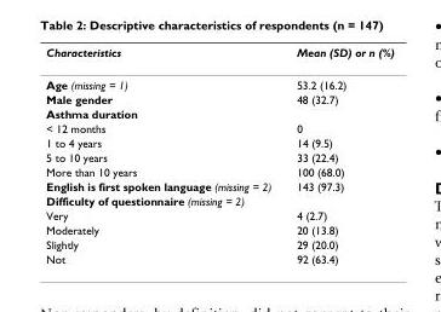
<table><thead><tr><td>Characteristics</td><td>Mean (SD) or n (%)</td></tr></thead><tbody><tr><td>Age (missing = 1)</td><td>53.2 (16.2)</td></tr><tr><td>Male gender</td><td>48 (32.7)</td></tr><tr><td colspan="2">Asthma duration</td></tr><tr><td>&lt; 12 months</td><td>0</td></tr><tr><td>1 to 4 years</td><td>14 (9.5)</td></tr><tr><td>5 to 10 years</td><td>33 (22.4)</td></tr><tr><td>More than 10 years</td><td>100 (68.0)</td></tr><tr><td>English is first spoken language (missing = 2)</td><td>143 (97.3)</td></tr><tr><td colspan="2">Difficulty of questionnaire (missing = 2)</td></tr><tr><td>Very</td><td>4 (2.7)</td></tr><tr><td>Moderately</td><td>20 (13.8)</td></tr><tr><td>Slightly</td><td>29 (20.0)</td></tr><tr><td>Not</td><td>92 (63.4)</td></tr></tbody></table>